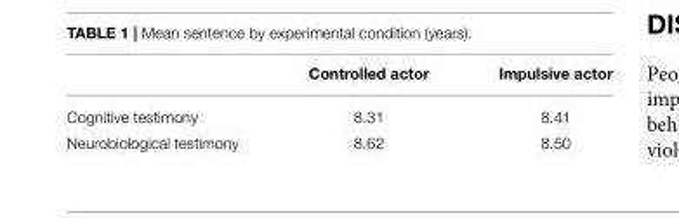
<table><thead><tr><td></td><td>Controlled actor</td><td>Impulsive actor</td></tr></thead><tbody><tr><td>Cognitive testimony</td><td>8.31</td><td>8.41</td></tr><tr><td>Neurobiological testimony</td><td>8.62</td><td>8.50</td></tr></tbody></table>